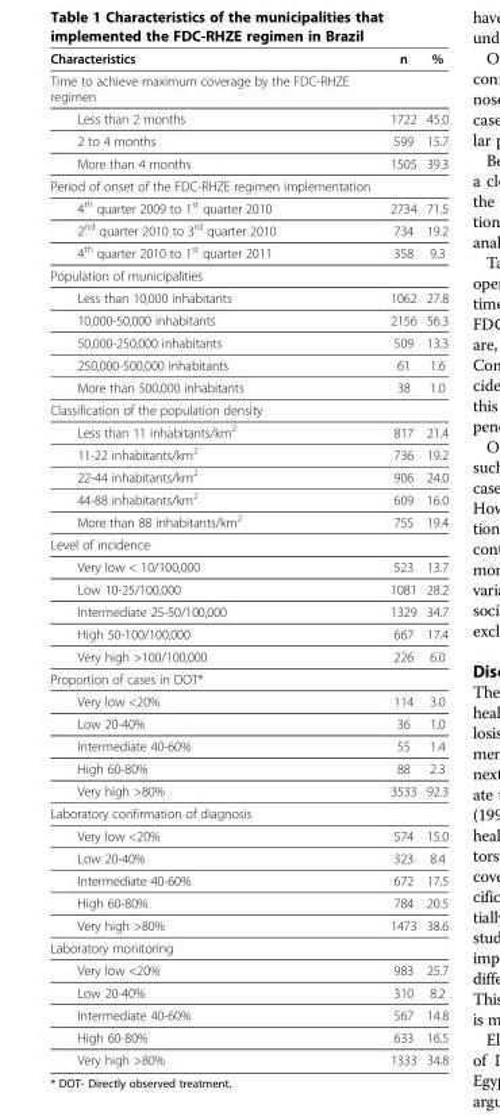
<table><thead><tr><td>Characteristics</td><td>n</td><td>%</td></tr></thead><tbody><tr><td colspan="3">Time to achieve maximum coverage by the FDC-RHZE regimen</td></tr><tr><td>Less than 2 months</td><td>1722</td><td>45.0</td></tr><tr><td>2 to 4 months</td><td>599</td><td>15.7</td></tr><tr><td>More than 4 months</td><td>1505</td><td>39.3</td></tr><tr><td colspan="3">Period of onset of the FDC-RHZE regimen implementation</td></tr><tr><td>4<sup>th</sup> quarter 2009 to 1<sup>st</sup> quarter 2010</td><td>2734</td><td>71.5</td></tr><tr><td>2<sup>nd</sup> quarter 2010 to 3<sup>rd</sup> quarter 2010</td><td>734</td><td>19.2</td></tr><tr><td>4<sup>th</sup> quarter 2010 to 1<sup>st</sup> quarter 2011</td><td>358</td><td>9.3</td></tr><tr><td colspan="3">Population of municipalities</td></tr><tr><td>Less than 10,000 inhabitants</td><td>1062</td><td>27.8</td></tr><tr><td>10,000-50,000 inhabitants</td><td>2156</td><td>56.3</td></tr><tr><td>50,000-250,000 inhabitants</td><td>509</td><td>13.3</td></tr><tr><td>250,000-500,000 inhabitants</td><td>61</td><td>1.6</td></tr><tr><td>More than 500,000 inhabitants</td><td>38</td><td>1.0</td></tr><tr><td colspan="3">Classification of the population density</td></tr><tr><td>Less than 11 inhabitants/km<sup>2</sup></td><td>817</td><td>21.4</td></tr><tr><td>11-22 inhabitants/km<sup>2</sup></td><td>736</td><td>19.2</td></tr><tr><td>22-44 inhabitants/km<sup>2</sup></td><td>906</td><td>24.0</td></tr><tr><td>44-88 inhabitants/km<sup>2</sup></td><td>609</td><td>16.0</td></tr><tr><td>More than 88 inhabitants/km<sup>2</sup></td><td>755</td><td>19.4</td></tr><tr><td colspan="3">Level of incidence</td></tr><tr><td>Very low &lt; 10/100,000</td><td>523</td><td>13.7</td></tr><tr><td>Low 10-25/100,000</td><td>1081</td><td>28.2</td></tr><tr><td>Intermediate 25-50/100,000</td><td>1329</td><td>34.7</td></tr><tr><td>High 50-100/100,000</td><td>667</td><td>17.4</td></tr><tr><td>Very high &gt;100/100,000</td><td>226</td><td>6.0</td></tr><tr><td colspan="3">Proportion of cases in DOT*</td></tr><tr><td>Very low &lt;20%</td><td>114</td><td>3.0</td></tr><tr><td>Low 20-40%</td><td>36</td><td>1.0</td></tr><tr><td>Intermediate 40-60%</td><td>55</td><td>1.4</td></tr><tr><td>High 60-80%</td><td>88</td><td>2.3</td></tr><tr><td>Very high &gt;80%</td><td>3533</td><td>92.3</td></tr><tr><td colspan="3">Laboratory confirmation of diagnosis</td></tr><tr><td>Very low &lt;20%</td><td>574</td><td>15.0</td></tr><tr><td>Low 20-40%</td><td>323</td><td>8.4</td></tr><tr><td>Intermediate 40-60%</td><td>672</td><td>17.5</td></tr><tr><td>High 60-80%</td><td>784</td><td>20.5</td></tr><tr><td>Very high &gt;80%</td><td>1473</td><td>38.6</td></tr><tr><td colspan="3">Laboratory monitoring</td></tr><tr><td>Very low &lt;20%</td><td>983</td><td>25.7</td></tr><tr><td>Low 20-40%</td><td>310</td><td>8.2</td></tr><tr><td>Intermediate 40-60%</td><td>567</td><td>14.8</td></tr><tr><td>High 60-80%</td><td>633</td><td>16.5</td></tr><tr><td>Very high &gt;80%</td><td>1333</td><td>34.8</td></tr></tbody></table>